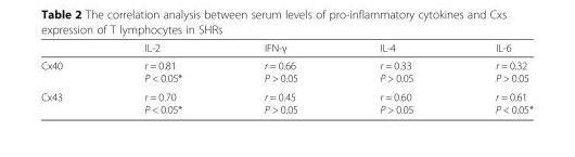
<table><thead><tr><td></td><td>IL-2</td><td>IFN-γ</td><td>IL-4</td><td>IL-6</td></tr></thead><tbody><tr><td>Cx40</td><td>r = 0.81 P &lt; 0.05*</td><td>r = 0.66 P &gt; 0.05</td><td>r = 0.33 P &gt; 0.05</td><td>r = 0.32 P &gt; 0.05</td></tr><tr><td>Cx43</td><td>r = 0.70 P &lt; 0.05*</td><td>r = 0.45 P &gt; 0.05</td><td>r = 0.60 P &gt; 0.05</td><td>r = 0.61 P &lt; 0.05*</td></tr></tbody></table>